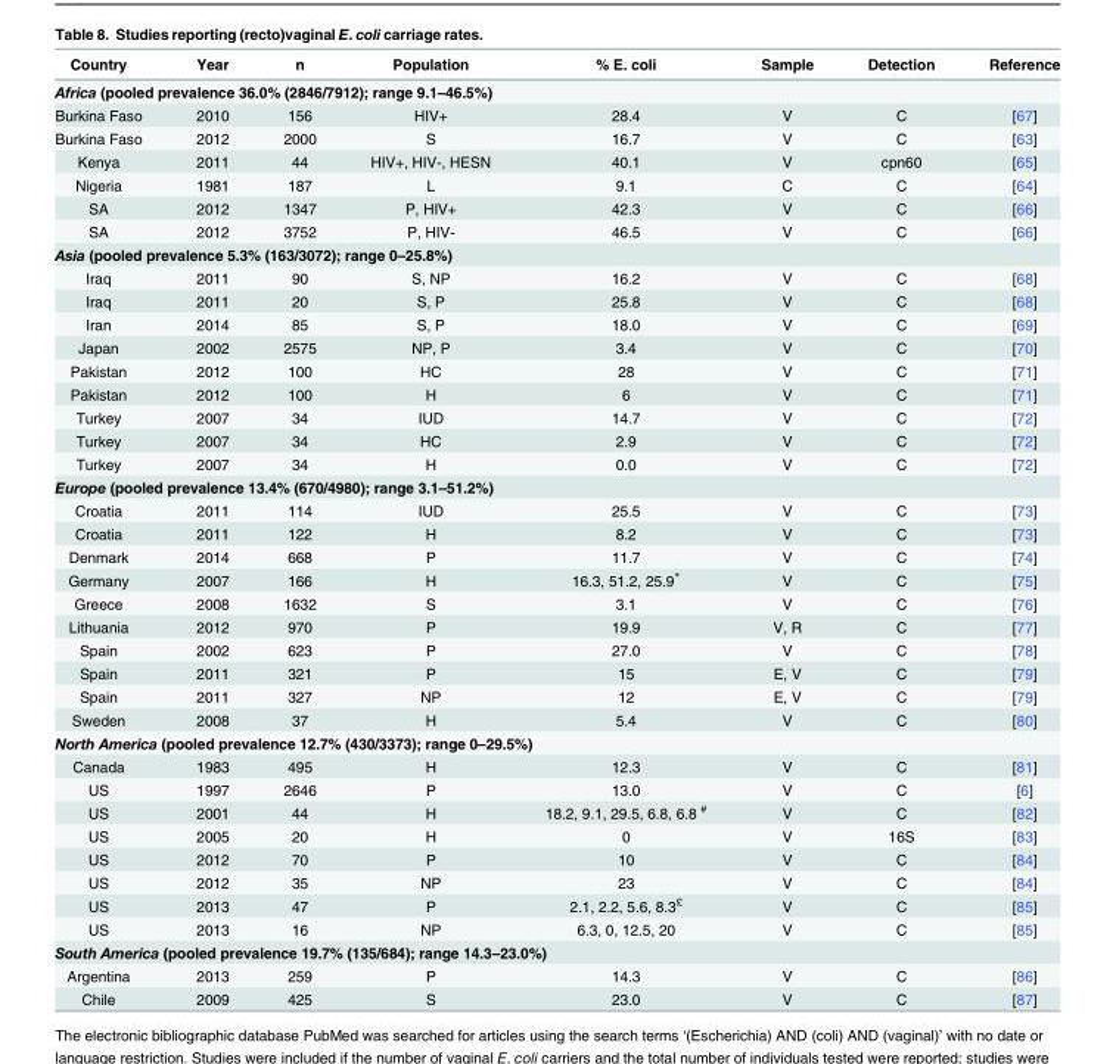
<table><thead><tr><td>Country</td><td>Year</td><td>n</td><td>Population</td><td>% E. coli</td><td>Sample</td><td>Detection</td><td>Reference</td></tr></thead><tbody><tr><td colspan="8">Africa (pooled prevalence 36.0% (2846/7912); range 9.1–46.5%)</td></tr><tr><td>Burkina Faso</td><td>2010</td><td>156</td><td>HIV+</td><td>28.4</td><td>V</td><td>C</td><td>[67]</td></tr><tr><td>Burkina Faso</td><td>2012</td><td>2000</td><td>S</td><td>16.7</td><td>V</td><td>C</td><td>[63]</td></tr><tr><td>Kenya</td><td>2011</td><td>44</td><td>HIV+, HIV-, HESN</td><td>40.1</td><td>V</td><td>cpn60</td><td>[65]</td></tr><tr><td>Nigeria</td><td>1981</td><td>187</td><td>L</td><td>9.1</td><td>C</td><td>C</td><td>[64]</td></tr><tr><td>SA</td><td>2012</td><td>1347</td><td>P, HIV+</td><td>42.3</td><td>V</td><td>C</td><td>[66]</td></tr><tr><td>SA</td><td>2012</td><td>3752</td><td>P, HIV-</td><td>46.5</td><td>V</td><td>C</td><td>[66]</td></tr><tr><td colspan="8">Asia (pooled prevalence 5.3% (163/3072); range 0–25.8%)</td></tr><tr><td>Iraq</td><td>2011</td><td>90</td><td>S, NP</td><td>16.2</td><td>V</td><td>C</td><td>[68]</td></tr><tr><td>Iraq</td><td>2011</td><td>20</td><td>S, P</td><td>25.8</td><td>V</td><td>C</td><td>[68]</td></tr><tr><td>Iran</td><td>2014</td><td>85</td><td>S, P</td><td>18.0</td><td>V</td><td>C</td><td>[69]</td></tr><tr><td>Japan</td><td>2002</td><td>2575</td><td>NP, P</td><td>3.4</td><td>V</td><td>C</td><td>[70]</td></tr><tr><td>Pakistan</td><td>2012</td><td>100</td><td>HC</td><td>28</td><td>V</td><td>C</td><td>[71]</td></tr><tr><td>Pakistan</td><td>2012</td><td>100</td><td>H</td><td>6</td><td>V</td><td>C</td><td>[71]</td></tr><tr><td>Turkey</td><td>2007</td><td>34</td><td>IUD</td><td>14.7</td><td>V</td><td>C</td><td>[72]</td></tr><tr><td>Turkey</td><td>2007</td><td>34</td><td>HC</td><td>2.9</td><td>V</td><td>C</td><td>[72]</td></tr><tr><td>Turkey</td><td>2007</td><td>34</td><td>H</td><td>0.0</td><td>V</td><td>C</td><td>[72]</td></tr><tr><td colspan="8">Europe (pooled prevalence 13.4% (670/4980); range 3.1–51.2%)</td></tr><tr><td>Croatia</td><td>2011</td><td>114</td><td>IUD</td><td>25.5</td><td>V</td><td>C</td><td>[73]</td></tr><tr><td>Croatia</td><td>2011</td><td>122</td><td>H</td><td>8.2</td><td>V</td><td>C</td><td>[73]</td></tr><tr><td>Denmark</td><td>2014</td><td>668</td><td>P</td><td>11.7</td><td>V</td><td>C</td><td>[74]</td></tr><tr><td>Germany</td><td>2007</td><td>166</td><td>H</td><td>16.3, 51.2, 25.9*</td><td>V</td><td>C</td><td>[75]</td></tr><tr><td>Greece</td><td>2008</td><td>1632</td><td>S</td><td>3.1</td><td>V</td><td>C</td><td>[76]</td></tr><tr><td>Lithuania</td><td>2012</td><td>970</td><td>P</td><td>19.9</td><td>V, R</td><td>C</td><td>[77]</td></tr><tr><td>Spain</td><td>2002</td><td>623</td><td>P</td><td>27.0</td><td>V</td><td>C</td><td>[78]</td></tr><tr><td>Spain</td><td>2011</td><td>321</td><td>P</td><td>15</td><td>E, V</td><td>C</td><td>[79]</td></tr><tr><td>Spain</td><td>2011</td><td>327</td><td>NP</td><td>12</td><td>E, V</td><td>C</td><td>[79]</td></tr><tr><td>Sweden</td><td>2008</td><td>37</td><td>H</td><td>5.4</td><td>V</td><td>C</td><td>[80]</td></tr><tr><td colspan="8">North America (pooled prevalence 12.7% (430/3373); range 0–29.5%)</td></tr><tr><td>Canada</td><td>1983</td><td>495</td><td>H</td><td>12.3</td><td>V</td><td>C</td><td>[81]</td></tr><tr><td>US</td><td>1997</td><td>2646</td><td>P</td><td>13.0</td><td>V</td><td>C</td><td>[6]</td></tr><tr><td>US</td><td>2001</td><td>44</td><td>H</td><td>18.2, 9.1, 29.5, 6.8, 6.8 <sup>#</sup></td><td>V</td><td>C</td><td>[82]</td></tr><tr><td>US</td><td>2005</td><td>20</td><td>H</td><td>0</td><td>V</td><td>16S</td><td>[83]</td></tr><tr><td>US</td><td>2012</td><td>70</td><td>P</td><td>10</td><td>V</td><td>C</td><td>[84]</td></tr><tr><td>US</td><td>2012</td><td>35</td><td>NP</td><td>23</td><td>V</td><td>C</td><td>[84]</td></tr><tr><td>US</td><td>2013</td><td>47</td><td>P</td><td>2.1, 2.2, 5.6, 8.3<sup>£</sup></td><td>V</td><td>C</td><td>[85]</td></tr><tr><td>US</td><td>2013</td><td>16</td><td>NP</td><td>6.3, 0, 12.5, 20</td><td>V</td><td>C</td><td>[85]</td></tr><tr><td colspan="8">South America (pooled prevalence 19.7% (135/684); range 14.3–23.0%)</td></tr><tr><td>Argentina</td><td>2013</td><td>259</td><td>P</td><td>14.3</td><td>V</td><td>C</td><td>[86]</td></tr><tr><td>Chile</td><td>2009</td><td>425</td><td>S</td><td>23.0</td><td>V</td><td>C</td><td>[87]</td></tr></tbody></table>